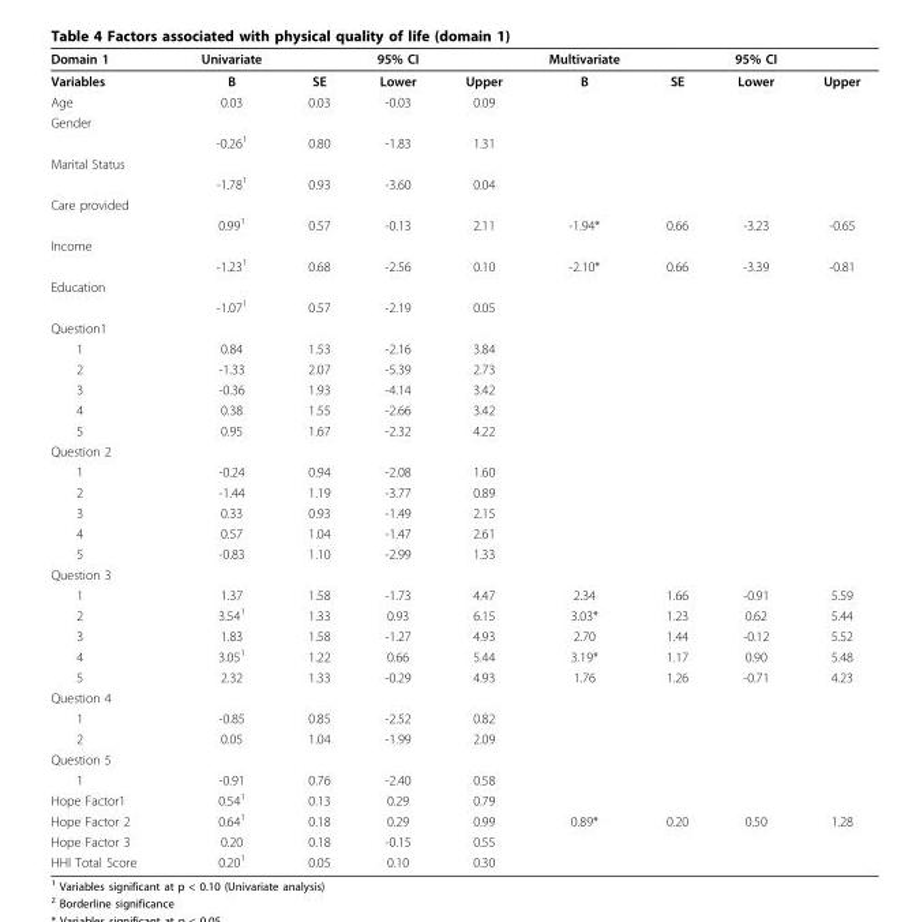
<table><thead><tr><td>Domain 1</td><td>Univariate</td><td></td><td>95% CI</td><td></td><td>Multivariate</td><td></td><td>95% CI</td><td></td></tr></thead><tbody><tr><td>Variables</td><td>B</td><td>SE</td><td>Lower</td><td>Upper</td><td>B</td><td>SE</td><td>Lower</td><td>Upper</td></tr><tr><td>Age</td><td>0.03</td><td>0.03</td><td>-0.03</td><td>0.09</td><td></td><td></td><td></td><td></td></tr><tr><td colspan="9">Gender</td></tr><tr><td></td><td>-0.26<sup>1</sup></td><td>0.80</td><td>-1.83</td><td>1.31</td><td></td><td></td><td></td><td></td></tr><tr><td colspan="9">Marital Status</td></tr><tr><td></td><td>-1.78<sup>1</sup></td><td>0.93</td><td>-3.60</td><td>0.04</td><td></td><td></td><td></td><td></td></tr><tr><td colspan="9">Care provided</td></tr><tr><td></td><td>0.99<sup>1</sup></td><td>0.57</td><td>-0.13</td><td>2.11</td><td>-1.94*</td><td>0.66</td><td>-3.23</td><td>-0.65</td></tr><tr><td colspan="9">Income</td></tr><tr><td></td><td>-1.23<sup>1</sup></td><td>0.68</td><td>-2.56</td><td>0.10</td><td>-2.10*</td><td>0.66</td><td>-3.39</td><td>-0.81</td></tr><tr><td colspan="9">Education</td></tr><tr><td></td><td>-1.07<sup>1</sup></td><td>0.57</td><td>-2.19</td><td>0.05</td><td></td><td></td><td></td><td></td></tr><tr><td colspan="9">Question1</td></tr><tr><td>1</td><td>0.84</td><td>1.53</td><td>-2.16</td><td>3.84</td><td></td><td></td><td></td><td></td></tr><tr><td>2</td><td>-1.33</td><td>2.07</td><td>-5.39</td><td>2.73</td><td></td><td></td><td></td><td></td></tr><tr><td>3</td><td>-0.36</td><td>1.93</td><td>-4.14</td><td>3.42</td><td></td><td></td><td></td><td></td></tr><tr><td>4</td><td>0.38</td><td>1.55</td><td>-2.66</td><td>3.42</td><td></td><td></td><td></td><td></td></tr><tr><td>5</td><td>0.95</td><td>1.67</td><td>-2.32</td><td>4.22</td><td></td><td></td><td></td><td></td></tr><tr><td colspan="9">Question 2</td></tr><tr><td>1</td><td>-0.24</td><td>0.94</td><td>-2.08</td><td>1.60</td><td></td><td></td><td></td><td></td></tr><tr><td>2</td><td>-1.44</td><td>1.19</td><td>-3.77</td><td>0.89</td><td></td><td></td><td></td><td></td></tr><tr><td>3</td><td>0.33</td><td>0.93</td><td>-1.49</td><td>2.15</td><td></td><td></td><td></td><td></td></tr><tr><td>4</td><td>0.57</td><td>1.04</td><td>-1.47</td><td>2.61</td><td></td><td></td><td></td><td></td></tr><tr><td>5</td><td>-0.83</td><td>1.10</td><td>-2.99</td><td>1.33</td><td></td><td></td><td></td><td></td></tr><tr><td colspan="9">Question 3</td></tr><tr><td>1</td><td>1.37</td><td>1.58</td><td>-1.73</td><td>4.47</td><td>2.34</td><td>1.66</td><td>-0.91</td><td>5.59</td></tr><tr><td>2</td><td>3.54<sup>1</sup></td><td>1.33</td><td>0.93</td><td>6.15</td><td>3.03*</td><td>1.23</td><td>0.62</td><td>5.44</td></tr><tr><td>3</td><td>1.83</td><td>1.58</td><td>-1.27</td><td>4.93</td><td>2.70</td><td>1.44</td><td>-0.12</td><td>5.52</td></tr><tr><td>4</td><td>3.05<sup>1</sup></td><td>1.22</td><td>0.66</td><td>5.44</td><td>3.19*</td><td>1.17</td><td>0.90</td><td>5.48</td></tr><tr><td>5</td><td>2.32</td><td>1.33</td><td>-0.29</td><td>4.93</td><td>1.76</td><td>1.26</td><td>-0.71</td><td>4.23</td></tr><tr><td colspan="9">Question 4</td></tr><tr><td>1</td><td>-0.85</td><td>0.85</td><td>-2.52</td><td>0.82</td><td></td><td></td><td></td><td></td></tr><tr><td>2</td><td>0.05</td><td>1.04</td><td>-1.99</td><td>2.09</td><td></td><td></td><td></td><td></td></tr><tr><td colspan="9">Question 5</td></tr><tr><td>1</td><td>-0.91</td><td>0.76</td><td>-2.40</td><td>0.58</td><td></td><td></td><td></td><td></td></tr><tr><td>Hope Factor1</td><td>0.54<sup>1</sup></td><td>0.13</td><td>0.29</td><td>0.79</td><td></td><td></td><td></td><td></td></tr><tr><td>Hope Factor 2</td><td>0.64<sup>1</sup></td><td>0.18</td><td>0.29</td><td>0.99</td><td>0.89*</td><td>0.20</td><td>0.50</td><td>1.28</td></tr><tr><td>Hope Factor 3</td><td>0.20</td><td>0.18</td><td>-0.15</td><td>0.55</td><td></td><td></td><td></td><td></td></tr><tr><td>HHI Total Score</td><td>0.20<sup>1</sup></td><td>0.05</td><td>0.10</td><td>0.30</td><td></td><td></td><td></td><td></td></tr></tbody></table>